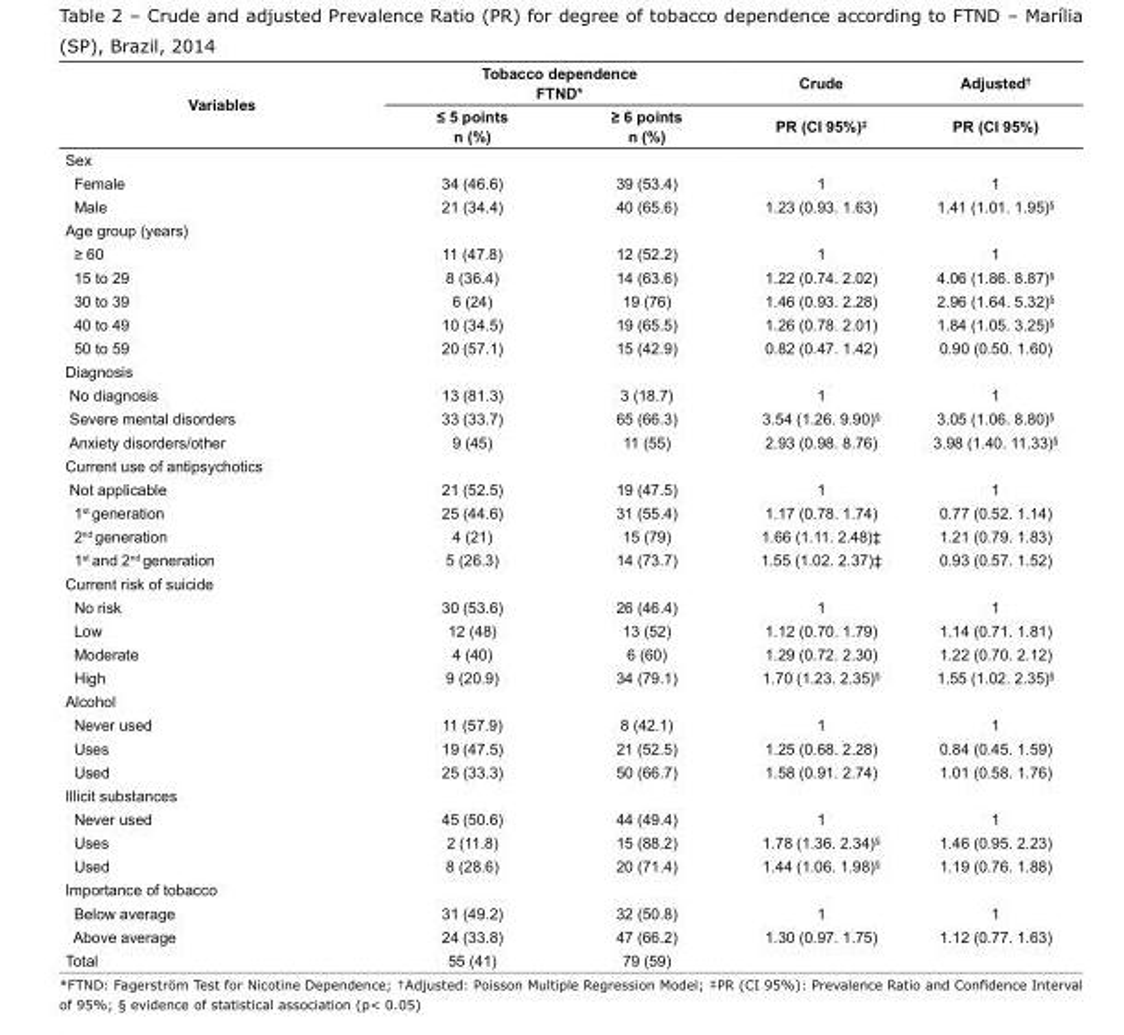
<table><tbody><tr><td rowspan="2">Variables</td><td colspan="2">Tobacco dependence FTND*</td><td>Crude</td><td>Adjusted<sup>†</sup></td></tr><tr><td>≤ 5 points n (%)</td><td>≥ 6 points n (%)</td><td>PR (CI 95%)<sup>‡</sup></td><td>PR (CI 95%)</td></tr><tr><td colspan="5">Sex</td></tr><tr><td>Female</td><td>34 (46.6)</td><td>39 (53.4)</td><td>1</td><td>1</td></tr><tr><td>Male</td><td>21 (34.4)</td><td>40 (65.6)</td><td>1.23 (0.93. 1.63)</td><td>1.41 (1.01. 1.95)<sup>§</sup></td></tr><tr><td colspan="5">Age group (years)</td></tr><tr><td>≥ 60</td><td>11 (47.8)</td><td>12 (52.2)</td><td>1</td><td>1</td></tr><tr><td>15 to 29</td><td>8 (36.4)</td><td>14 (63.6)</td><td>1.22 (0.74. 2.02)</td><td>4.06 (1.86. 8.87)<sup>§</sup></td></tr><tr><td>30 to 39</td><td>6 (24)</td><td>19 (76)</td><td>1.46 (0.93. 2.28)</td><td>2.96 (1.64. 5.32)<sup>§</sup></td></tr><tr><td>40 to 49</td><td>10 (34.5)</td><td>19 (65.5)</td><td>1.26 (0.78. 2.01)</td><td>1.84 (1.05. 3.25)<sup>§</sup></td></tr><tr><td>50 to 59</td><td>20 (57.1)</td><td>15 (42.9)</td><td>0.82 (0.47. 1.42)</td><td>0.90 (0.50. 1.60)</td></tr><tr><td colspan="5">Diagnosis</td></tr><tr><td>No diagnosis</td><td>13 (81.3)</td><td>3 (18.7)</td><td>1</td><td>1</td></tr><tr><td>Severe mental disorders</td><td>33 (33.7)</td><td>65 (66.3)</td><td>3.54 (1.26. 9.90)<sup>§</sup></td><td>3.05 (1.06. 8.80)<sup>§</sup></td></tr><tr><td>Anxiety disorders/other</td><td>9 (45)</td><td>11 (55)</td><td>2.93 (0.98. 8.76)</td><td>3.98 (1.40. 11.33)<sup>§</sup></td></tr><tr><td colspan="5">Current use of antipsychotics</td></tr><tr><td>Not applicable</td><td>21 (52.5)</td><td>19 (47.5)</td><td>1</td><td>1</td></tr><tr><td>1<sup>st</sup> generation</td><td>25 (44.6)</td><td>31 (55.4)</td><td>1.17 (0.78. 1.74)</td><td>0.77 (0.52. 1.14)</td></tr><tr><td>2<sup>nd</sup> generation</td><td>4 (21)</td><td>15 (79)</td><td>1.66 (1.11. 2.48)‡</td><td>1.21 (0.79. 1.83)</td></tr><tr><td>1<sup>st</sup> and 2<sup>nd</sup> generation</td><td>5 (26.3)</td><td>14 (73.7)</td><td>1.55 (1.02. 2.37)‡</td><td>0.93 (0.57. 1.52)</td></tr><tr><td colspan="5">Current risk of suicide</td></tr><tr><td>No risk</td><td>30 (53.6)</td><td>26 (46.4)</td><td>1</td><td>1</td></tr><tr><td>Low</td><td>12 (48)</td><td>13 (52)</td><td>1.12 (0.70. 1.79)</td><td>1.14 (0.71. 1.81)</td></tr><tr><td>Moderate</td><td>4 (40)</td><td>6 (60)</td><td>1.29 (0.72. 2.30)</td><td>1.22 (0.70. 2.12)</td></tr><tr><td>High</td><td>9 (20.9)</td><td>34 (79.1)</td><td>1.70 (1.23. 2.35)<sup>§</sup></td><td>1.55 (1.02. 2.35)<sup>§</sup></td></tr><tr><td colspan="5">Alcohol</td></tr><tr><td>Never used</td><td>11 (57.9)</td><td>8 (42.1)</td><td>1</td><td>1</td></tr><tr><td>Uses</td><td>19 (47.5)</td><td>21 (52.5)</td><td>1.25 (0.68. 2.28)</td><td>0.84 (0.45. 1.59)</td></tr><tr><td>Used</td><td>25 (33.3)</td><td>50 (66.7)</td><td>1.58 (0.91. 2.74)</td><td>1.01 (0.58. 1.76)</td></tr><tr><td colspan="5">Illicit substances</td></tr><tr><td>Never used</td><td>45 (50.6)</td><td>44 (49.4)</td><td>1</td><td>1</td></tr><tr><td>Uses</td><td>2 (11.8)</td><td>15 (88.2)</td><td>1.78 (1.36. 2.34)<sup>§</sup></td><td>1.46 (0.95. 2.23)</td></tr><tr><td>Used</td><td>8 (28.6)</td><td>20 (71.4)</td><td>1.44 (1.06. 1.98)<sup>§</sup></td><td>1.19 (0.76. 1.88)</td></tr><tr><td colspan="5">Importance of tobacco</td></tr><tr><td>Below average</td><td>31 (49.2)</td><td>32 (50.8)</td><td>1</td><td>1</td></tr><tr><td>Above average</td><td>24 (33.8)</td><td>47 (66.2)</td><td>1.30 (0.97. 1.75)</td><td>1.12 (0.77. 1.63)</td></tr><tr><td>Total</td><td>55 (41)</td><td>79 (59)</td><td></td><td></td></tr></tbody></table>